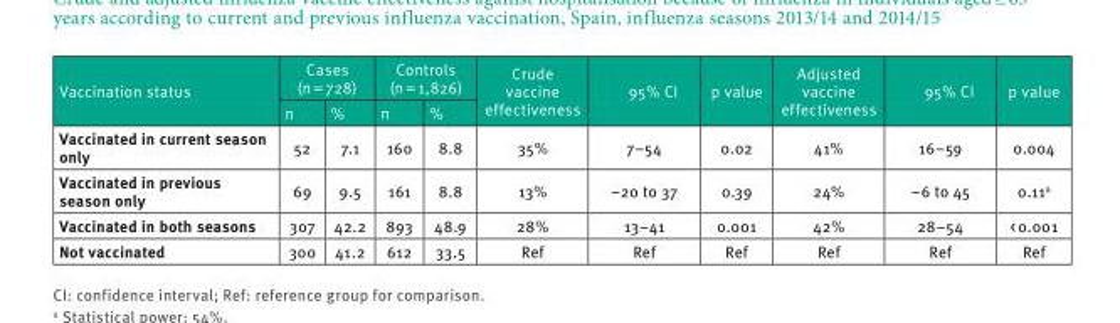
<table><thead><tr><td rowspan="2">Vaccination status</td><td colspan="2">Cases (n = 728)</td><td colspan="2">Controls (n = 1,826)</td><td rowspan="2">Crude vaccine effectiveness</td><td rowspan="2">95% CI</td><td rowspan="2">p value</td><td rowspan="2">Adjusted vaccine effectiveness</td><td rowspan="2">95% CI</td><td rowspan="2">p value</td></tr><tr><td>n</td><td>%</td><td>n</td><td>%</td></tr></thead><tbody><tr><td>Vaccinated in current season only</td><td>52</td><td>7.1</td><td>160</td><td>8.8</td><td>35%</td><td>7–54</td><td>0.02</td><td>41%</td><td>16–59</td><td>0.004</td></tr><tr><td>Vaccinated in previous season only</td><td>69</td><td>9.5</td><td>161</td><td>8.8</td><td>13%</td><td>−20 to 37</td><td>0.39</td><td>24%</td><td>−6 to 45</td><td>0.11<sup>a</sup></td></tr><tr><td>Vaccinated in both seasons</td><td>307</td><td>42.2</td><td>893</td><td>48.9</td><td>28%</td><td>13–41</td><td>0.001</td><td>42%</td><td>28–54</td><td>&lt; 0.001</td></tr><tr><td>Not vaccinated</td><td>300</td><td>41.2</td><td>612</td><td>33.5</td><td>Ref</td><td>Ref</td><td>Ref</td><td>Ref</td><td>Ref</td><td>Ref</td></tr></tbody></table>